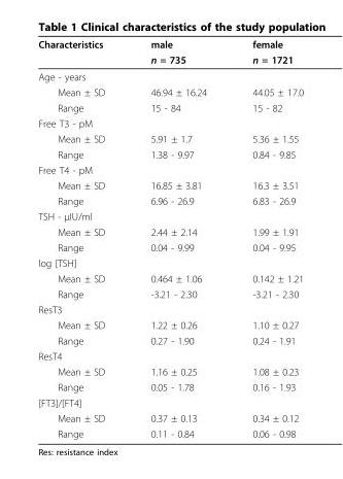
<table><thead><tr><td rowspan="2">Characteristics</td><td rowspan="2">male n = 735</td><td rowspan="2">female n = 1721</td></tr><tr></tr></thead><tbody><tr><td colspan="3">Age - years</td></tr><tr><td>Mean ± SD</td><td>46.94 ± 16.24</td><td>44.05 ± 17.0</td></tr><tr><td>Range</td><td>15 - 84</td><td>15 - 82</td></tr><tr><td colspan="3">Free T3 - pM</td></tr><tr><td>Mean ± SD</td><td>5.91 ± 1.7</td><td>5.36 ± 1.55</td></tr><tr><td>Range</td><td>1.38 - 9.97</td><td>0.84 - 9.85</td></tr><tr><td colspan="3">Free T4 - pM</td></tr><tr><td>Mean ± SD</td><td>16.85 ± 3.81</td><td>16.3 ± 3.51</td></tr><tr><td>Range</td><td>6.96 - 26.9</td><td>6.83 - 26.9</td></tr><tr><td colspan="3">TSH - μIU/ml</td></tr><tr><td>Mean ± SD</td><td>2.44 ± 2.14</td><td>1.99 ± 1.91</td></tr><tr><td>Range</td><td>0.04 - 9.99</td><td>0.04 - 9.95</td></tr><tr><td colspan="3">log [TSH]</td></tr><tr><td>Mean ± SD</td><td>0.464 ± 1.06</td><td>0.142 ± 1.21</td></tr><tr><td>Range</td><td>-3.21 - 2.30</td><td>-3.21 - 2.30</td></tr><tr><td colspan="3">ResT3</td></tr><tr><td>Mean ± SD</td><td>1.22 ± 0.26</td><td>1.10 ± 0.27</td></tr><tr><td>Range</td><td>0.27 - 1.90</td><td>0.24 - 1.91</td></tr><tr><td colspan="3">ResT4</td></tr><tr><td>Mean ± SD</td><td>1.16 ± 0.25</td><td>1.08 ± 0.23</td></tr><tr><td>Range</td><td>0.05 - 1.78</td><td>0.16 - 1.93</td></tr><tr><td colspan="3">[FT3]/[FT4]</td></tr><tr><td>Mean ± SD</td><td>0.37 ± 0.13</td><td>0.34 ± 0.12</td></tr><tr><td>Range</td><td>0.11 - 0.84</td><td>0.06 - 0.98</td></tr></tbody></table>